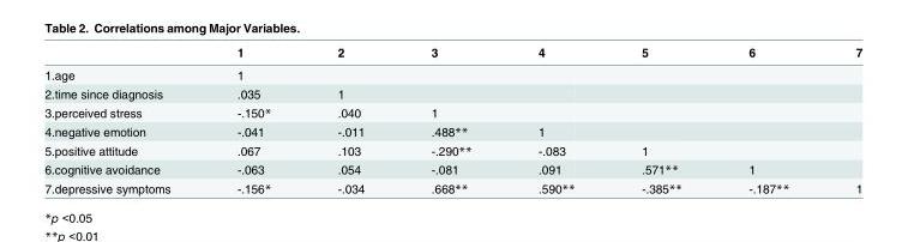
<table><thead><tr><td></td><td>1</td><td>2</td><td>3</td><td>4</td><td>5</td><td>6</td><td>7</td></tr></thead><tbody><tr><td>1.age</td><td>1</td><td></td><td></td><td></td><td></td><td></td><td></td></tr><tr><td>2.time since diagnosis</td><td>.035</td><td>1</td><td></td><td></td><td></td><td></td><td></td></tr><tr><td>3.perceived stress</td><td>-.150*</td><td>.040</td><td>1</td><td></td><td></td><td></td><td></td></tr><tr><td>4.negative emotion</td><td>-.041</td><td>-.011</td><td>.488**</td><td>1</td><td></td><td></td><td></td></tr><tr><td>5.positive attitude</td><td>.067</td><td>.103</td><td>-.290**</td><td>-.083</td><td>1</td><td></td><td></td></tr><tr><td>6.cognitive avoidance</td><td>-.063</td><td>.054</td><td>-.081</td><td>.091</td><td>.571**</td><td>1</td><td></td></tr><tr><td>7.depressive symptoms</td><td>-.156*</td><td>-.034</td><td>.668**</td><td>.590**</td><td>-.385**</td><td>-.187**</td><td>1</td></tr></tbody></table>